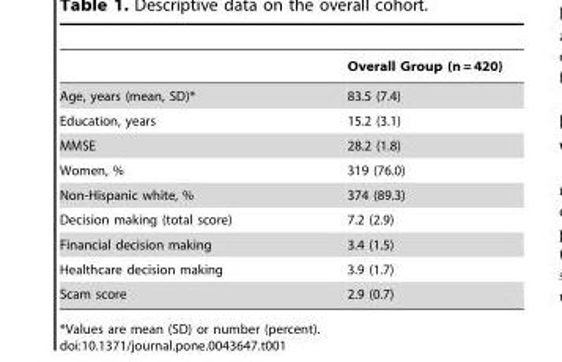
<table><thead><tr><td></td><td>Overall Group (n = 420)</td></tr></thead><tbody><tr><td>Age, years (mean, SD)*</td><td>83.5 (7.4)</td></tr><tr><td>Education, years</td><td>15.2 (3.1)</td></tr><tr><td>MMSE</td><td>28.2 (1.8)</td></tr><tr><td>Women, %</td><td>319 (76.0)</td></tr><tr><td>Non-Hispanic white, %</td><td>374 (89.3)</td></tr><tr><td>Decision making (total score)</td><td>7.2 (2.9)</td></tr><tr><td>Financial decision making</td><td>3.4 (1.5)</td></tr><tr><td>Healthcare decision making</td><td>3.9 (1.7)</td></tr><tr><td>Scam score</td><td>2.9 (0.7)</td></tr></tbody></table>